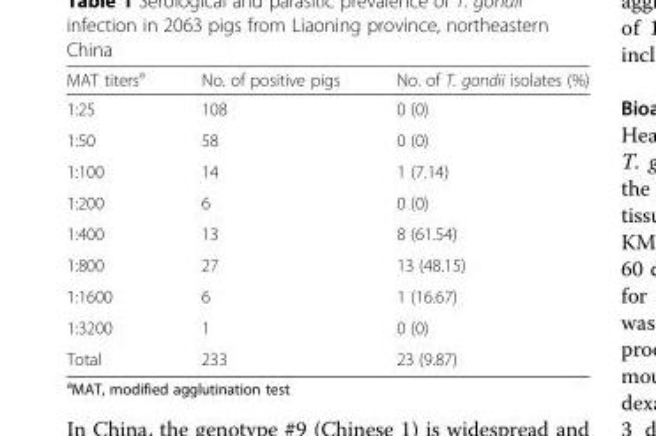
<table><thead><tr><td>MAT titers<sup>a</sup></td><td>No. of positive pigs</td><td>No. of T. gondii isolates (%)</td></tr></thead><tbody><tr><td>1:25</td><td>108</td><td>0 (0)</td></tr><tr><td>1:50</td><td>58</td><td>0 (0)</td></tr><tr><td>1:100</td><td>14</td><td>1 (7.14)</td></tr><tr><td>1:200</td><td>6</td><td>0 (0)</td></tr><tr><td>1:400</td><td>13</td><td>8 (61.54)</td></tr><tr><td>1:800</td><td>27</td><td>13 (48.15)</td></tr><tr><td>1:1600</td><td>6</td><td>1 (16.67)</td></tr><tr><td>1:3200</td><td>1</td><td>0 (0)</td></tr><tr><td>Total</td><td>233</td><td>23 (9.87)</td></tr></tbody></table>